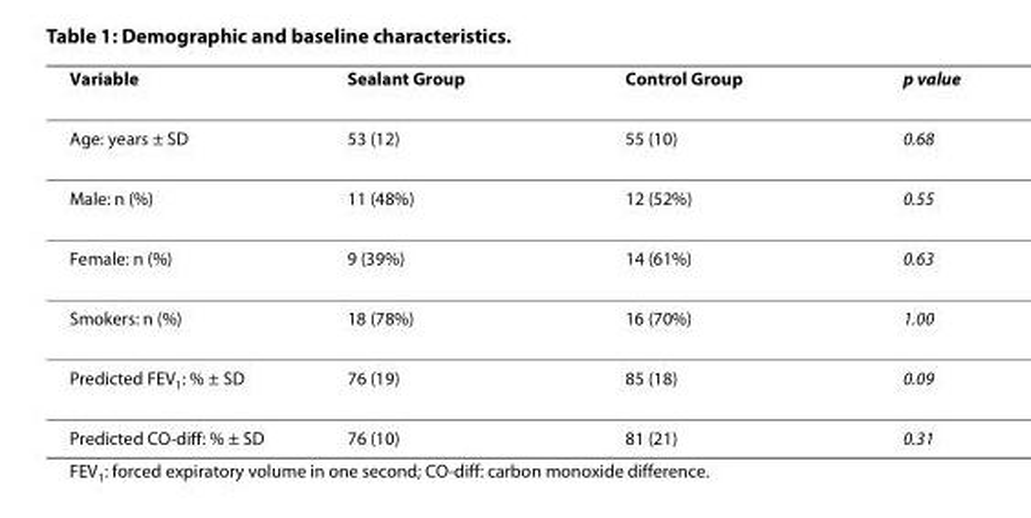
<table><thead><tr><td>Variable</td><td>Sealant Group</td><td>Control Group</td><td>p value</td></tr></thead><tbody><tr><td>Age: years ± SD</td><td>53 (12)</td><td>55 (10)</td><td>0.68</td></tr><tr><td>Male: n (%)</td><td>11 (48%)</td><td>12 (52%)</td><td>0.55</td></tr><tr><td>Female: n (%)</td><td>9 (39%)</td><td>14 (61%)</td><td>0.63</td></tr><tr><td>Smokers: n (%)</td><td>18 (78%)</td><td>16 (70%)</td><td>1.00</td></tr><tr><td>Predicted FEV<sub>1</sub>: % ± SD</td><td>76 (19)</td><td>85 (18)</td><td>0.09</td></tr><tr><td>Predicted CO-diff: % ± SD</td><td>76 (10)</td><td>81 (21)</td><td>0.31</td></tr></tbody></table>